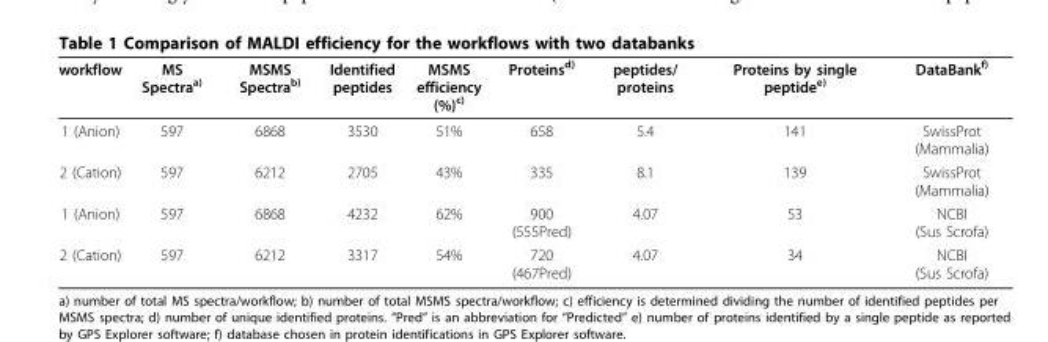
<table><thead><tr><td>workflow</td><td>MS Spectra<sup>a)</sup></td><td>MSMS Spectra<sup>b)</sup></td><td>Identified peptides</td><td>MSMS efficiency (%)<sup>c)</sup></td><td>Proteins<sup>d)</sup></td><td>peptides/ proteins</td><td>Proteins by single peptide<sup>e)</sup></td><td>DataBank<sup>f)</sup></td></tr></thead><tbody><tr><td>1 (Anion)</td><td>597</td><td>6868</td><td>3530</td><td>51%</td><td>658</td><td>5.4</td><td>141</td><td>SwissProt (Mammalia)</td></tr><tr><td>2 (Cation)</td><td>597</td><td>6212</td><td>2705</td><td>43%</td><td>335</td><td>8.1</td><td>139</td><td>SwissProt (Mammalia)</td></tr><tr><td>1 (Anion)</td><td>597</td><td>6868</td><td>4232</td><td>62%</td><td>900 (555Pred)</td><td>4.07</td><td>53</td><td>NCBI (Sus Scrofa)</td></tr><tr><td>2 (Cation)</td><td>597</td><td>6212</td><td>3317</td><td>54%</td><td>720 (467Pred)</td><td>4.07</td><td>34</td><td>NCBI (Sus Scrofa)</td></tr></tbody></table>